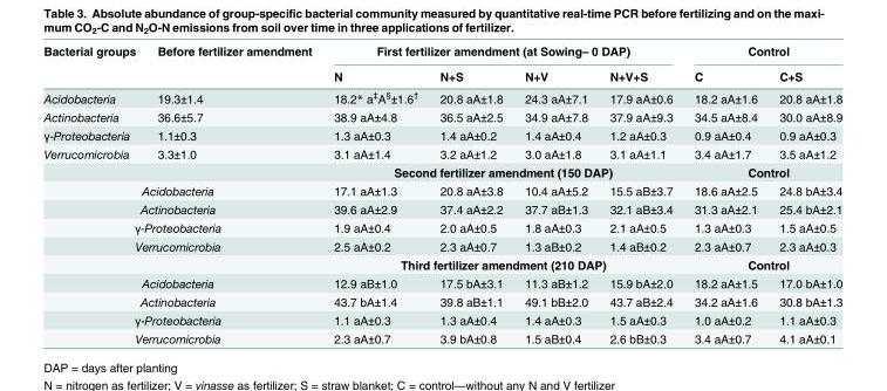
<table><thead><tr><td rowspan="2">Bacterial groups</td><td rowspan="2">Before fertilizer amendment</td><td colspan="4">First fertilizer amendment (at Sowing– 0 DAP)</td><td colspan="2">Control</td></tr><tr><td>N</td><td>N+S</td><td>N+V</td><td>N+V+S</td><td>C</td><td>C+S</td></tr></thead><tbody><tr><td>Acidobacteria</td><td>19.3±1.4</td><td>18.2* a<sup>‡</sup>A<sup>§</sup>±1.6<sup>†</sup></td><td>20.8 aA±1.8</td><td>24.3 aA±7.1</td><td>17.9 aA±0.6</td><td>18.2 aA±1.6</td><td>20.8 aA±1.8</td></tr><tr><td>Actinobacteria</td><td>36.6±5.7</td><td>38.9 aA±4.8</td><td>36.5 aA±2.5</td><td>34.9 aA±7.8</td><td>37.9 aA±9.3</td><td>34.5 aA±8.4</td><td>30.0 aA±8.9</td></tr><tr><td>γ-Proteobacteria</td><td>1.1±0.3</td><td>1.3 aA±0.3</td><td>1.4 aA±0.2</td><td>1.4 aA±0.4</td><td>1.2 aA±0.3</td><td>0.9 aA±0.4</td><td>0.9 aA±0.3</td></tr><tr><td>Verrucomicrobia</td><td>3.3±1.0</td><td>3.1 aA±1.4</td><td>3.2 aA±1.2</td><td>3.0 aA±1.8</td><td>3.1 aA±1.1</td><td>3.4 aA±1.7</td><td>3.5 aA±1.2</td></tr><tr><td colspan="2"></td><td colspan="4">Second fertilizer amendment (150 DAP)</td><td colspan="2">Control</td></tr><tr><td colspan="2">Acidobacteria</td><td>17.1 aA±1.3</td><td>20.8 aA±3.8</td><td>10.4 aA±5.2</td><td>15.5 aB±3.7</td><td>18.6 aA±2.5</td><td>24.8 bA±3.4</td></tr><tr><td colspan="2">Actinobacteria</td><td>39.6 aA±2.9</td><td>37.4 aA±2.2</td><td>37.7 aB±1.3</td><td>32.1 aB±3.4</td><td>31.3 aA±2.1</td><td>25.4 bA±2.1</td></tr><tr><td colspan="2">γ-Proteobacteria</td><td>1.9 aA±0.4</td><td>2.0 aA±0.5</td><td>1.8 aA±0.3</td><td>2.1 aA±0.5</td><td>1.3 aA±0.3</td><td>1.5 aA±0.5</td></tr><tr><td rowspan="2" colspan="2">Verrucomicrobia</td><td>2.5 aA±0.2</td><td>2.3 aA±0.7</td><td>1.3 aB±0.2</td><td>1.4 aB±0.2</td><td>2.3 aA±0.7</td><td>2.3 aA±0.3</td></tr><tr><td colspan="4">Third fertilizer amendment (210 DAP)</td><td colspan="2">Control</td></tr><tr><td colspan="2">Acidobacteria</td><td>12.9 aB±1.0</td><td>17.5 bA±3.1</td><td>11.3 aB±1.2</td><td>15.9 bA±2.0</td><td>18.2 aA±1.5</td><td>17.0 bA±1.0</td></tr><tr><td colspan="2">Actinobacteria</td><td>43.7 bA±1.4</td><td>39.8 aB±1.1</td><td>49.1 bB±2.0</td><td>43.7 aB±2.4</td><td>34.2 aA±1.6</td><td>30.8 bA±1.3</td></tr><tr><td colspan="2">γ-Proteobacteria</td><td>1.1 aA±0.3</td><td>1.3 aA±0.4</td><td>1.4 aA±0.3</td><td>1.5 aA±0.3</td><td>1.0 aA±0.2</td><td>1.1 aA±0.3</td></tr><tr><td colspan="2">Verrucomicrobia</td><td>2.3 aA±0.7</td><td>3.9 bA±0.8</td><td>1.5 aB±0.4</td><td>2.6 bB±0.3</td><td>3.4 aA±0.7</td><td>4.1 aA±0.1</td></tr></tbody></table>